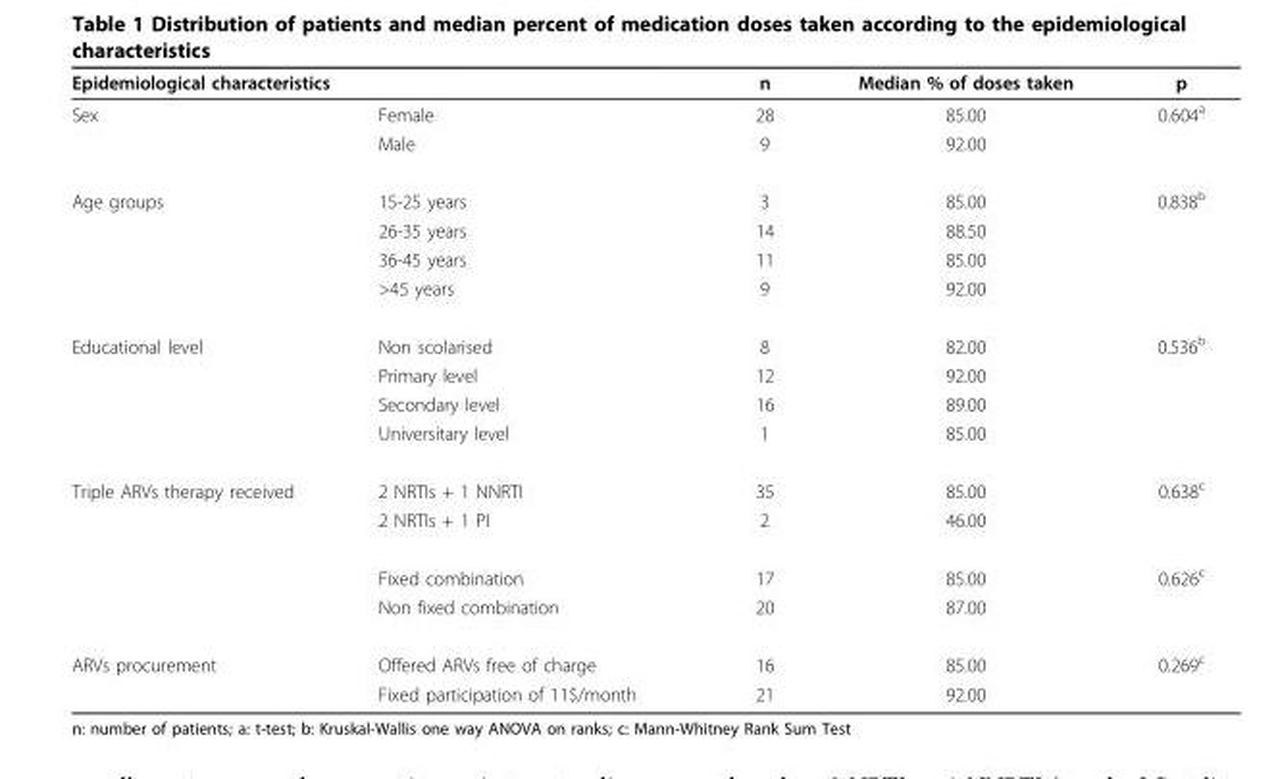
<table><thead><tr><td colspan="2">Epidemiological characteristics</td><td rowspan="2">n 28</td><td rowspan="2">Median % of doses taken 85.00</td><td rowspan="2">p 0.604<sup>a</sup></td></tr><tr><td>Sex</td><td>Female</td></tr></thead><tbody><tr><td></td><td>Male</td><td>9</td><td>92.00</td><td></td></tr><tr><td rowspan="4">Age groups</td><td>15-25 years</td><td>3</td><td>85.00</td><td>0.838<sup>b</sup></td></tr><tr><td>26-35 years</td><td>14</td><td>88.50</td><td></td></tr><tr><td>36-45 years</td><td>11</td><td>85.00</td><td></td></tr><tr><td>&gt;45 years</td><td>9</td><td>92.00</td><td></td></tr><tr><td rowspan="4">Educational level</td><td>Non scolarised</td><td>8</td><td>82.00</td><td>0.536<sup>b</sup></td></tr><tr><td>Primary level</td><td>12</td><td>92.00</td><td></td></tr><tr><td>Secondary level</td><td>16</td><td>89.00</td><td></td></tr><tr><td>Universitary level</td><td>1</td><td>85.00</td><td></td></tr><tr><td rowspan="4">Triple ARVs therapy received</td><td>2 NRTIs + 1 NNRTI</td><td>35</td><td>85.00</td><td>0.638<sup>c</sup></td></tr><tr><td>2 NRTIs + 1 PI</td><td>2</td><td>46.00</td><td></td></tr><tr><td>Fixed combination</td><td>17</td><td>85.00</td><td>0.626<sup>c</sup></td></tr><tr><td>Non fixed combination</td><td>20</td><td>87.00</td><td></td></tr><tr><td rowspan="2">ARVs procurement</td><td>Offered ARVs free of charge</td><td>16</td><td>85.00</td><td>0.269<sup>c</sup></td></tr><tr><td>Fixed participation of 11$/month</td><td>21</td><td>92.00</td><td></td></tr></tbody></table>